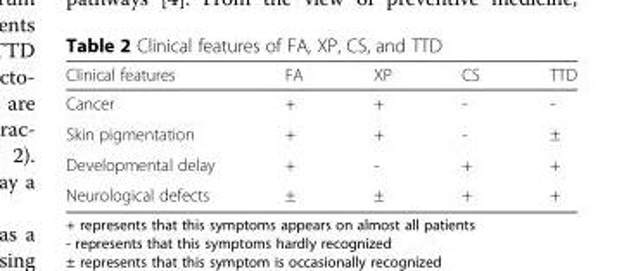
<table><thead><tr><td>Clinical features</td><td>FA</td><td>XP</td><td>CS</td><td>TTD</td></tr></thead><tbody><tr><td>Cancer</td><td>+</td><td>+</td><td>-</td><td>-</td></tr><tr><td>Skin pigmentation</td><td>+</td><td>+</td><td>-</td><td>±</td></tr><tr><td>Developmental delay</td><td>+</td><td>-</td><td>+</td><td>+</td></tr><tr><td>Neurological defects</td><td>±</td><td>±</td><td>+</td><td>+</td></tr></tbody></table>